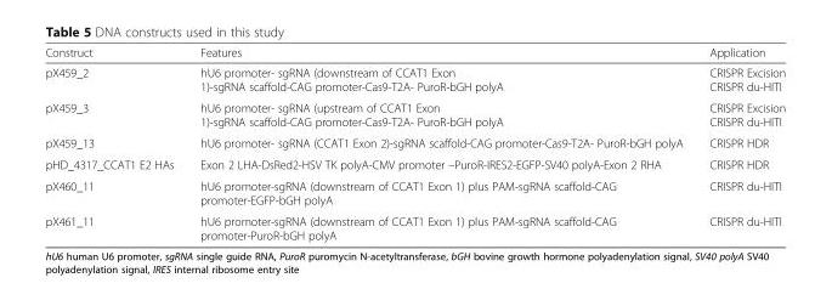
<table><thead><tr><td>Construct</td><td>Features</td><td>Application</td></tr></thead><tbody><tr><td>pX459_2</td><td>hU6 promoter- sgRNA (downstream of CCAT1 Exon 1)-sgRNA scaffold-CAG promoter-Cas9-T2A- PuroR-bGH polyA</td><td>CRISPR Excision CRISPR du-HITI</td></tr><tr><td>pX459_3</td><td>hU6 promoter- sgRNA (upstream of CCAT1 Exon 1)-sgRNA scaffold-CAG promoter-Cas9-T2A- PuroR-bGH polyA</td><td>CRISPR Excision CRISPR du-HITI</td></tr><tr><td>pX459_13</td><td>hU6 promoter- sgRNA (CCAT1 Exon 2)-sgRNA scaffold-CAG promoter-Cas9-T2A- PuroR-bGH polyA</td><td>CRISPR HDR</td></tr><tr><td>pHD_4317_CCAT1 E2 HAs</td><td>Exon 2 LHA-DsRed2-HSV TK polyA-CMV promoter –PuroR-IRES2-EGFP-SV40 polyA-Exon 2 RHA</td><td>CRISPR HDR</td></tr><tr><td>pX460_11</td><td>hU6 promoter-sgRNA (downstream of CCAT1 Exon 1) plus PAM-sgRNA scaffold-CAG promoter-EGFP-bGH polyA</td><td>CRISPR du-HITI</td></tr><tr><td>pX461_11</td><td>hU6 promoter-sgRNA (downstream of CCAT1 Exon 1) plus PAM-sgRNA scaffold-CAG promoter-PuroR-bGH polyA</td><td>CRISPR du-HITI</td></tr></tbody></table>